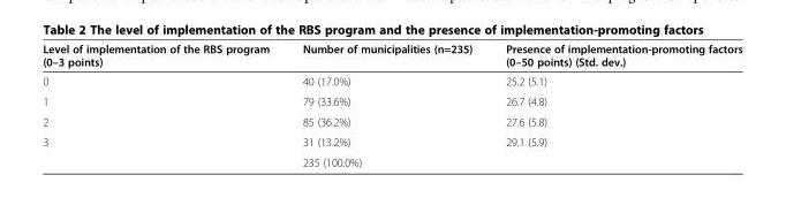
<table><thead><tr><td>Level of implementation of the RBS program (0–3 points)</td><td>Number of municipalities (n=235)</td><td>Presence of implementation-promoting factors (0–50 points) (Std. dev.)</td></tr></thead><tbody><tr><td>0</td><td>40 (17.0%)</td><td>25.2 (5.1)</td></tr><tr><td>1</td><td>79 (33.6%)</td><td>26.7 (4.8)</td></tr><tr><td>2</td><td>85 (36.2%)</td><td>27.6 (5.8)</td></tr><tr><td rowspan="2">3</td><td>31 (13.2%)</td><td>29.1 (5.9)</td></tr><tr><td>235 (100.0%)</td><td></td></tr></tbody></table>